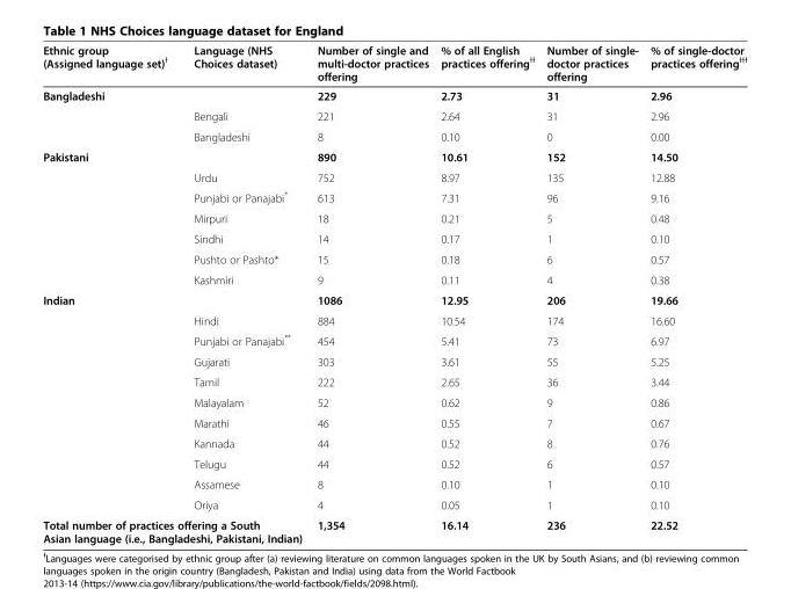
<table><thead><tr><td>Ethnic group (Assigned language set)<sup>Ɨ</sup></td><td>Language (NHS Choices dataset)</td><td>Number of single and multi-doctor practices offering</td><td>% of all English practices offering<sup>ƗƗ</sup></td><td>Number of single- doctor practices offering</td><td>% of single-doctor practices offering<sup>ƗƗƗ</sup></td></tr></thead><tbody><tr><td rowspan="3">Bangladeshi</td><td></td><td>229</td><td>2.73</td><td>31</td><td>2.96</td></tr><tr><td>Bengali</td><td>221</td><td>2.64</td><td>31</td><td>2.96</td></tr><tr><td>Bangladeshi</td><td>8</td><td>0.10</td><td>0</td><td>0.00</td></tr><tr><td rowspan="7">Pakistani</td><td></td><td>890</td><td>10.61</td><td>152</td><td>14.50</td></tr><tr><td>Urdu</td><td>752</td><td>8.97</td><td>135</td><td>12.88</td></tr><tr><td>Punjabi or Panajabi*</td><td>613</td><td>7.31</td><td>96</td><td>9.16</td></tr><tr><td>Mirpuri</td><td>18</td><td>0.21</td><td>5</td><td>0.48</td></tr><tr><td>Sindhi</td><td>14</td><td>0.17</td><td>1</td><td>0.10</td></tr><tr><td>Pushto or Pashto*</td><td>15</td><td>0.18</td><td>6</td><td>0.57</td></tr><tr><td>Kashmiri</td><td>9</td><td>0.11</td><td>4</td><td>0.38</td></tr><tr><td rowspan="11">Indian</td><td></td><td>1086</td><td>12.95</td><td>206</td><td>19.66</td></tr><tr><td>Hindi</td><td>884</td><td>10.54</td><td>174</td><td>16.60</td></tr><tr><td>Punjabi or Panajabi**</td><td>454</td><td>5.41</td><td>73</td><td>6.97</td></tr><tr><td>Gujarati</td><td>303</td><td>3.61</td><td>55</td><td>5.25</td></tr><tr><td>Tamil</td><td>222</td><td>2.65</td><td>36</td><td>3.44</td></tr><tr><td>Malayalam</td><td>52</td><td>0.62</td><td>9</td><td>0.86</td></tr><tr><td>Marathi</td><td>46</td><td>0.55</td><td>7</td><td>0.67</td></tr><tr><td>Kannada</td><td>44</td><td>0.52</td><td>8</td><td>0.76</td></tr><tr><td>Telugu</td><td>44</td><td>0.52</td><td>6</td><td>0.57</td></tr><tr><td>Assamese</td><td>8</td><td>0.10</td><td>1</td><td>0.10</td></tr><tr><td>Oriya</td><td>4</td><td>0.05</td><td>1</td><td>0.10</td></tr><tr><td colspan="2">Total number of practices offering a South Asian language (i.e., Bangladeshi, Pakistani, Indian)</td><td>1,354</td><td>16.14</td><td>236</td><td>22.52</td></tr></tbody></table>